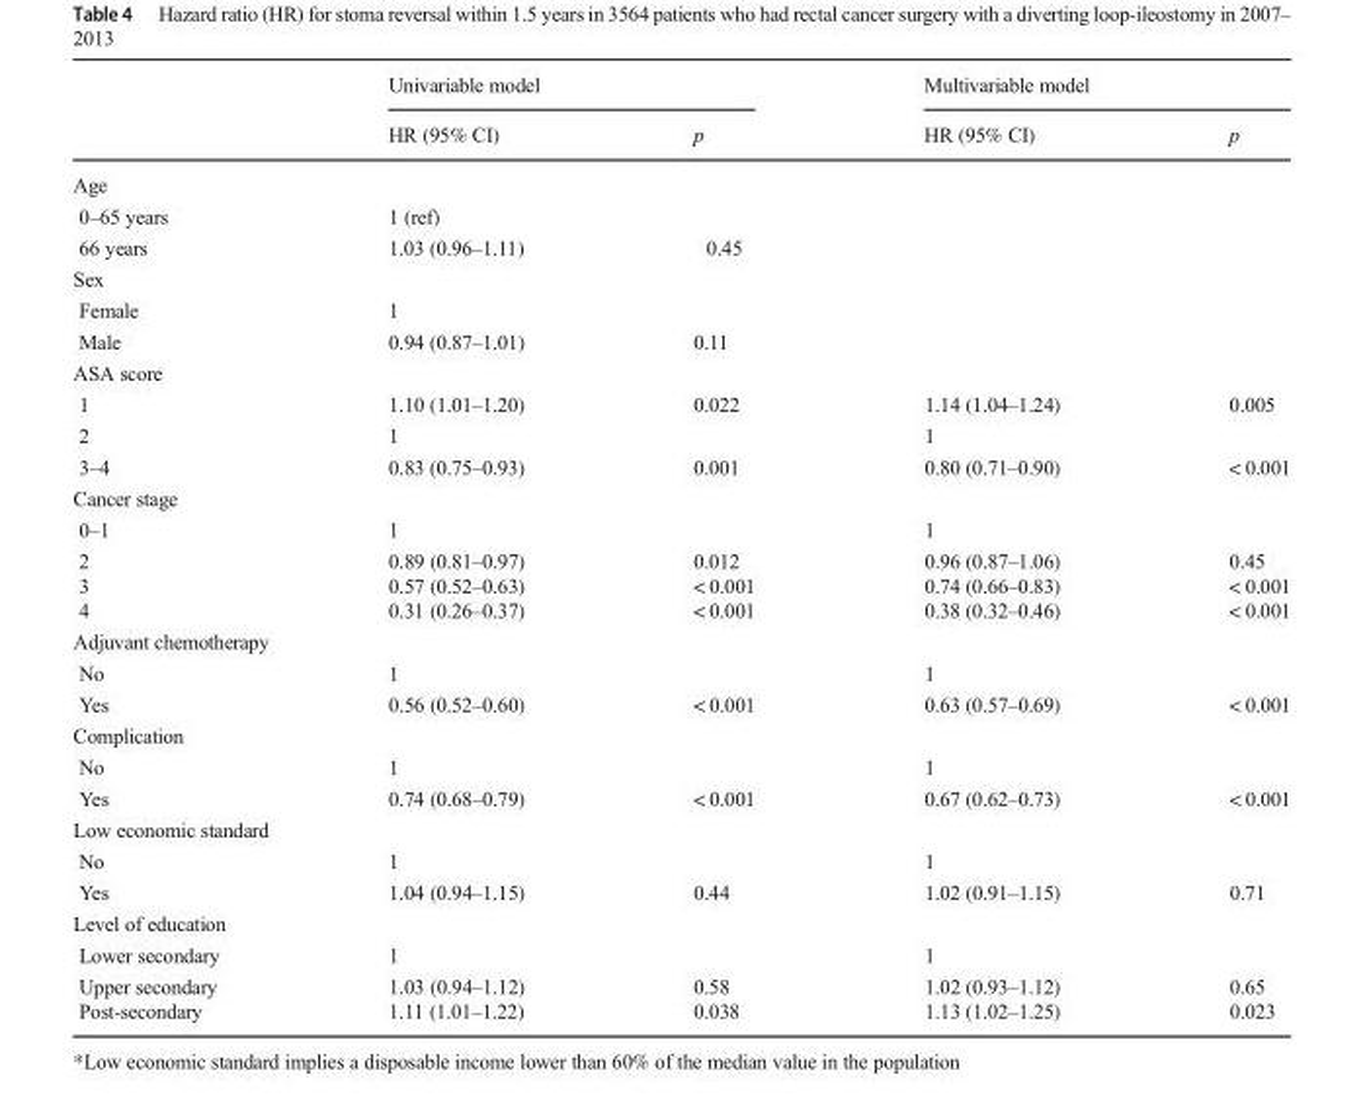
<table><thead><tr><td rowspan="2"></td><td colspan="2">Univariable model</td><td colspan="2">Multivariable model</td></tr><tr><td>HR (95% CI)</td><td>p</td><td>HR (95% CI)</td><td>p</td></tr></thead><tbody><tr><td colspan="5">Age</td></tr><tr><td>0–65 years</td><td>1 (ref)</td><td></td><td></td><td></td></tr><tr><td>66 years</td><td>1.03 (0.96–1.11)</td><td>0.45</td><td></td><td></td></tr><tr><td colspan="5">Sex</td></tr><tr><td>Female</td><td>1</td><td></td><td></td><td></td></tr><tr><td>Male</td><td>0.94 (0.87–1.01)</td><td>0.11</td><td></td><td></td></tr><tr><td colspan="5">ASA score</td></tr><tr><td>1</td><td>1.10 (1.01–1.20)</td><td>0.022</td><td>1.14 (1.04–1.24)</td><td>0.005</td></tr><tr><td>2</td><td>1</td><td></td><td>1</td><td></td></tr><tr><td>3–4</td><td>0.83 (0.75–0.93)</td><td>0.001</td><td>0.80 (0.71–0.90)</td><td>&lt; 0.001</td></tr><tr><td colspan="5">Cancer stage</td></tr><tr><td>0–1</td><td>1</td><td></td><td>1</td><td></td></tr><tr><td>2 3 4</td><td>0.89 (0.81–0.97) 0.57 (0.52–0.63) 0.31 (0.26–0.37)</td><td>0.012 &lt; 0.001 &lt; 0.001</td><td>0.96 (0.87–1.06) 0.74 (0.66–0.83) 0.38 (0.32–0.46)</td><td>0.45 &lt; 0.001 &lt; 0.001</td></tr><tr><td colspan="5">Adjuvant chemotherapy</td></tr><tr><td>No</td><td>1</td><td></td><td>1</td><td></td></tr><tr><td>Yes</td><td>0.56 (0.52–0.60)</td><td>&lt; 0.001</td><td>0.63 (0.57–0.69)</td><td>&lt; 0.001</td></tr><tr><td colspan="5">Complication</td></tr><tr><td>No</td><td>1</td><td></td><td>1</td><td></td></tr><tr><td>Yes</td><td>0.74 (0.68–0.79)</td><td>&lt; 0.001</td><td>0.67 (0.62–0.73)</td><td>&lt; 0.001</td></tr><tr><td colspan="5">Low economic standard</td></tr><tr><td>No</td><td>1</td><td></td><td>1</td><td></td></tr><tr><td>Yes</td><td>1.04 (0.94–1.15)</td><td>0.44</td><td>1.02 (0.91–1.15)</td><td>0.71</td></tr><tr><td colspan="5">Level of education</td></tr><tr><td>Lower secondary</td><td>1</td><td></td><td>1</td><td></td></tr><tr><td>Upper secondary Post-secondary</td><td>1.03 (0.94–1.12) 1.11 (1.01–1.22)</td><td>0.58 0.038</td><td>1.02 (0.93–1.12) 1.13 (1.02–1.25)</td><td>0.65 0.023</td></tr></tbody></table>